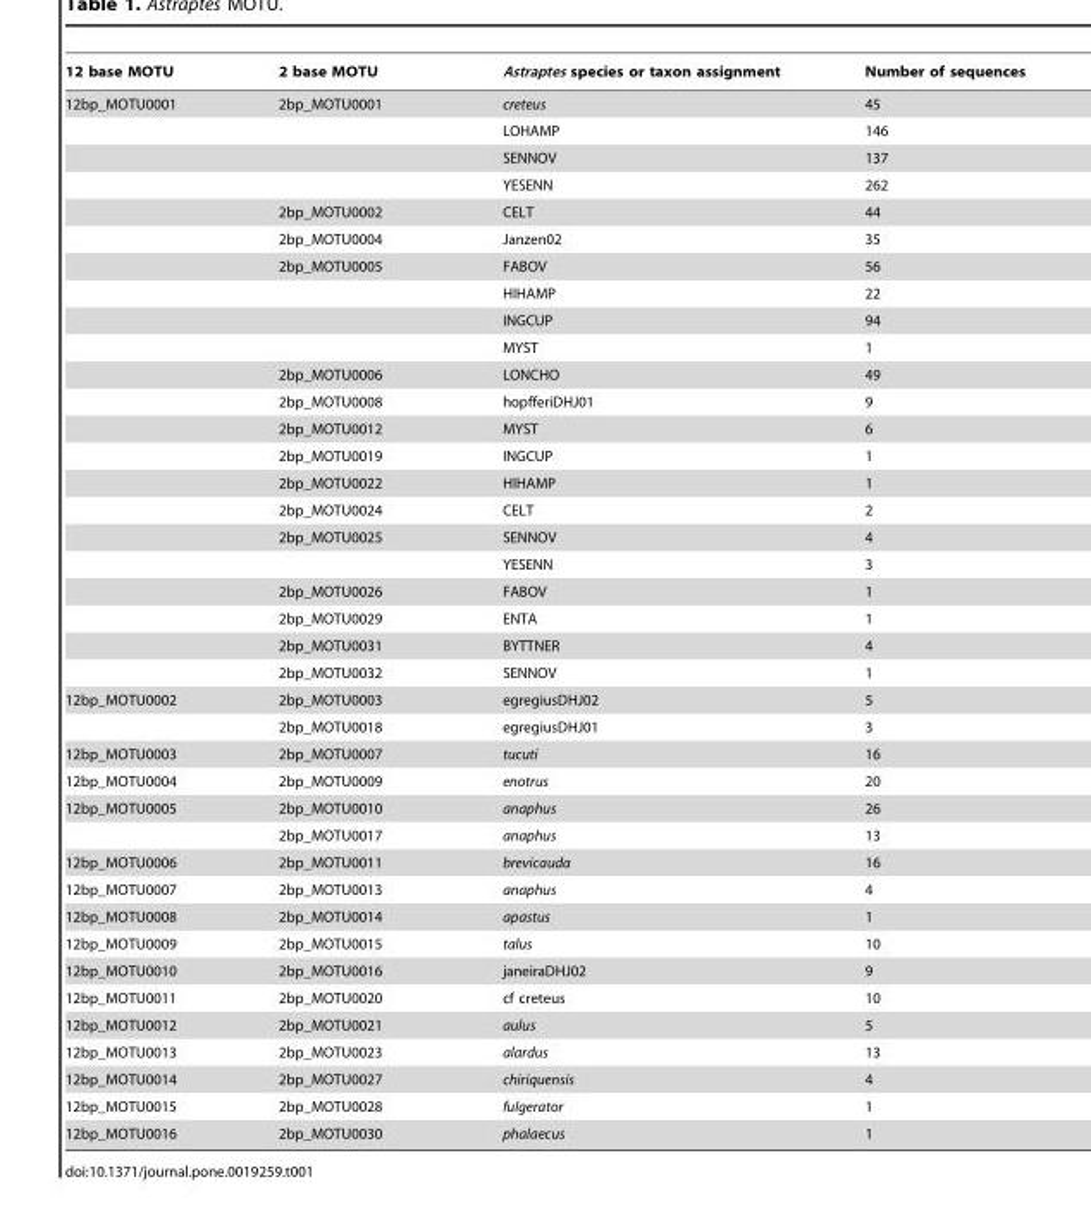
<table><thead><tr><td>12 base MOTU</td><td>2 base MOTU</td><td>Astraptes species or taxon assignment</td><td>Number of sequences</td></tr></thead><tbody><tr><td rowspan="22">12bp_MOTU0001</td><td>2bp_MOTU0001</td><td>creteus</td><td>45</td></tr><tr><td></td><td>LOHAMP</td><td>146</td></tr><tr><td></td><td>SENNOV</td><td>137</td></tr><tr><td></td><td>YESENN</td><td>262</td></tr><tr><td>2bp_MOTU0002</td><td>CELT</td><td>44</td></tr><tr><td>2bp_MOTU0004</td><td>Janzen02</td><td>35</td></tr><tr><td>2bp_MOTU0005</td><td>FABOV</td><td>56</td></tr><tr><td></td><td>HIHAMP</td><td>22</td></tr><tr><td></td><td>INGCUP</td><td>94</td></tr><tr><td></td><td>MYST</td><td>1</td></tr><tr><td>2bp_MOTU0006</td><td>LONCHO</td><td>49</td></tr><tr><td>2bp_MOTU0008</td><td>hopfferiDHJ01</td><td>9</td></tr><tr><td>2bp_MOTU0012</td><td>MYST</td><td>6</td></tr><tr><td>2bp_MOTU0019</td><td>INGCUP</td><td>1</td></tr><tr><td>2bp_MOTU0022</td><td>HIHAMP</td><td>1</td></tr><tr><td>2bp_MOTU0024</td><td>CELT</td><td>2</td></tr><tr><td>2bp_MOTU0025</td><td>SENNOV</td><td>4</td></tr><tr><td></td><td>YESENN</td><td>3</td></tr><tr><td>2bp_MOTU0026</td><td>FABOV</td><td>1</td></tr><tr><td>2bp_MOTU0029</td><td>ENTA</td><td>1</td></tr><tr><td>2bp_MOTU0031</td><td>BYTTNER</td><td>4</td></tr><tr><td>2bp_MOTU0032</td><td>SENNOV</td><td>1</td></tr><tr><td rowspan="2">12bp_MOTU0002</td><td>2bp_MOTU0003</td><td>egregiusDHJ02</td><td>5</td></tr><tr><td>2bp_MOTU0018</td><td>egregiusDHJ01</td><td>3</td></tr><tr><td>12bp_MOTU0003</td><td>2bp_MOTU0007</td><td>tucuti</td><td>16</td></tr><tr><td>12bp_MOTU0004</td><td>2bp_MOTU0009</td><td>enotrus</td><td>20</td></tr><tr><td rowspan="2">12bp_MOTU0005</td><td>2bp_MOTU0010</td><td>anaphus</td><td>26</td></tr><tr><td>2bp_MOTU0017</td><td>anaphus</td><td>13</td></tr><tr><td>12bp_MOTU0006</td><td>2bp_MOTU0011</td><td>brevicauda</td><td>16</td></tr><tr><td>12bp_MOTU0007</td><td>2bp_MOTU0013</td><td>anaphus</td><td>4</td></tr><tr><td>12bp_MOTU0008</td><td>2bp_MOTU0014</td><td>apastus</td><td>1</td></tr><tr><td>12bp_MOTU0009</td><td>2bp_MOTU0015</td><td>talus</td><td>10</td></tr><tr><td>12bp_MOTU0010</td><td>2bp_MOTU0016</td><td>janeiraDHJ02</td><td>9</td></tr><tr><td>12bp_MOTU0011</td><td>2bp_MOTU0020</td><td>cf creteus</td><td>10</td></tr><tr><td>12bp_MOTU0012</td><td>2bp_MOTU0021</td><td>aulus</td><td>5</td></tr><tr><td>12bp_MOTU0013</td><td>2bp_MOTU0023</td><td>alardus</td><td>13</td></tr><tr><td>12bp_MOTU0014</td><td>2bp_MOTU0027</td><td>chiriquensis</td><td>4</td></tr><tr><td>12bp_MOTU0015</td><td>2bp_MOTU0028</td><td>fulgerator</td><td>1</td></tr><tr><td>12bp_MOTU0016</td><td>2bp_MOTU0030</td><td>phalaecus</td><td>1</td></tr></tbody></table>